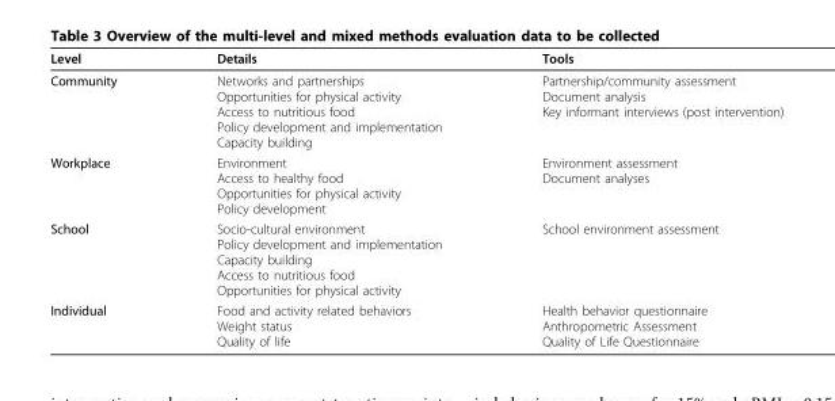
<table><thead><tr><td>Level</td><td>Details</td><td>Tools</td></tr></thead><tbody><tr><td>Community</td><td>Networks and partnerships Opportunities for physical activity Access to nutritious food Policy development and implementation Capacity building</td><td>Partnership/community assessment Document analysis Key informant interviews (post intervention)</td></tr><tr><td>Workplace</td><td>Environment Access to healthy food Opportunities for physical activity Policy development</td><td>Environment assessment Document analyses</td></tr><tr><td>School</td><td>Socio-cultural environment Policy development and implementation Capacity building Access to nutritious food Opportunities for physical activity</td><td>School environment assessment</td></tr><tr><td>Individual</td><td>Food and activity related behaviors Weight status Quality of life</td><td>Health behavior questionnaire Anthropometric Assessment Quality of Life Questionnaire</td></tr></tbody></table>